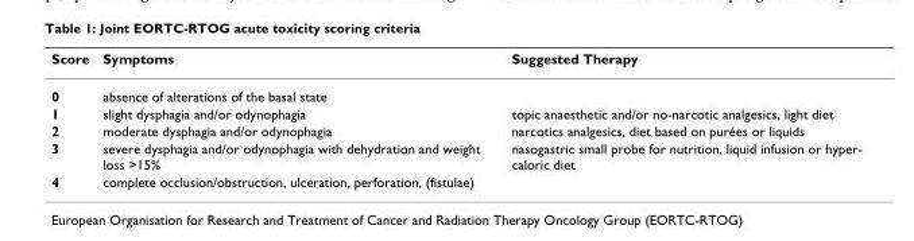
<table><thead><tr><td>Score</td><td>Symptoms</td><td>Suggested Therapy</td></tr></thead><tbody><tr><td>0</td><td>absence of alterations of the basal state</td><td></td></tr><tr><td>1</td><td>slight dysphagia and/or odynophagia</td><td>topic anaesthetic and/or no-narcotic analgesics, light diet</td></tr><tr><td>2</td><td>moderate dysphagia and/or odynophagia</td><td>narcotics analgesics, diet based on purées or liquids</td></tr><tr><td>3</td><td>severe dysphagia and/or odynophagia with dehydration and weight loss &gt;15%</td><td>nasogastric small probe for nutrition, liquid infusion or hyper- caloric diet</td></tr><tr><td>4</td><td>complete occlusion/obstruction, ulceration, perforation, (fistulae)</td><td></td></tr></tbody></table>